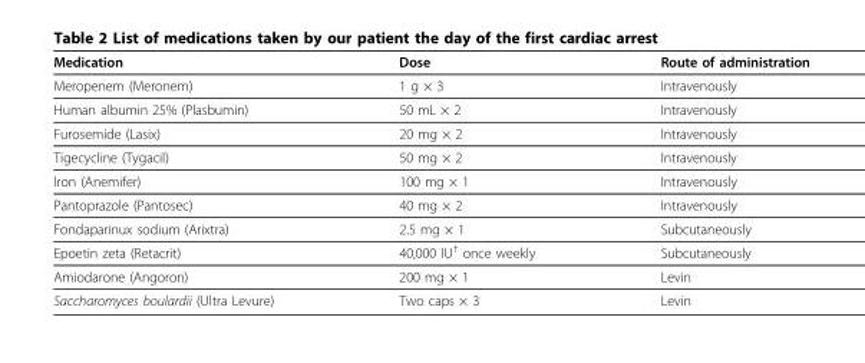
<table><thead><tr><td>Medication</td><td>Dose</td><td>Route of administration</td></tr></thead><tbody><tr><td>Meropenem (Meronem)</td><td>1 g × 3</td><td>Intravenously</td></tr><tr><td>Human albumin 25% (Plasbumin)</td><td>50 mL × 2</td><td>Intravenously</td></tr><tr><td>Furosemide (Lasix)</td><td>20 mg × 2</td><td>Intravenously</td></tr><tr><td>Tigecycline (Tygacil)</td><td>50 mg × 2</td><td>Intravenously</td></tr><tr><td>Iron (Anemifer)</td><td>100 mg × 1</td><td>Intravenously</td></tr><tr><td>Pantoprazole (Pantosec)</td><td>40 mg × 2</td><td>Intravenously</td></tr><tr><td>Fondaparinux sodium (Arixtra)</td><td>2.5 mg × 1</td><td>Subcutaneously</td></tr><tr><td>Epoetin zeta (Retacrit)</td><td>40,000 IU<sup>†</sup> once weekly</td><td>Subcutaneously</td></tr><tr><td>Amiodarone (Angoron)</td><td>200 mg × 1</td><td>Levin</td></tr><tr><td>Saccharomyces boulardii (Ultra Levure)</td><td>Two caps × 3</td><td>Levin</td></tr></tbody></table>